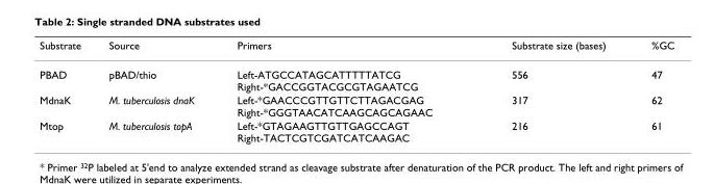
<table><thead><tr><td>Substrate</td><td>Source</td><td>Primers</td><td>Substrate size (bases)</td><td>%GC</td></tr></thead><tbody><tr><td>PBAD</td><td>pBAD/thio</td><td>Left-ATGCCATAGCATTTTTATCG Right-*GACCGGTACGCGTAGAATCG</td><td>556</td><td>47</td></tr><tr><td>MdnaK</td><td>M. tuberculosis dnaK</td><td>Left-*GAACCCGTTGTTCTTAGACGAG Right-*GGGTAACATCAAGCAGCAGAAC</td><td>317</td><td>62</td></tr><tr><td>Mtop</td><td>M. tuberculosis topA</td><td>Left-*GTAGAAGTTGTTGAGCCAGT Right-TACTCGTCGATCATCAAGAC</td><td>216</td><td>61</td></tr></tbody></table>